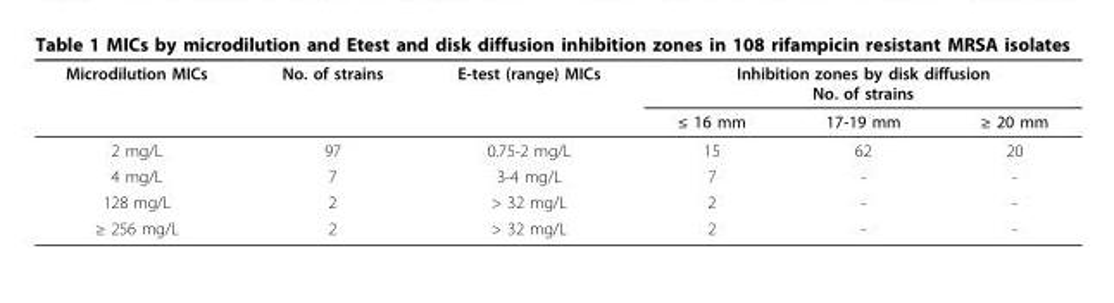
<table><thead><tr><td rowspan="2">Microdilution MICs</td><td rowspan="2">No. of strains</td><td rowspan="2">E-test (range) MICs</td><td colspan="3">Inhibition zones by disk diffusion No. of strains</td></tr><tr><td>≤ 16 mm</td><td>17-19 mm</td><td>≥ 20 mm</td></tr></thead><tbody><tr><td>2 mg/L</td><td>97</td><td>0.75-2 mg/L</td><td>15</td><td>62</td><td>20</td></tr><tr><td>4 mg/L</td><td>7</td><td>3-4 mg/L</td><td>7</td><td>-</td><td>-</td></tr><tr><td>128 mg/L</td><td>2</td><td>&gt; 32 mg/L</td><td>2</td><td>-</td><td>-</td></tr><tr><td>≥ 256 mg/L</td><td>2</td><td>&gt; 32 mg/L</td><td>2</td><td>-</td><td>-</td></tr></tbody></table>